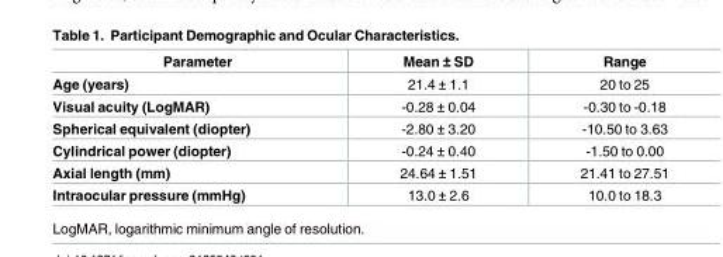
<table><thead><tr><td>Parameter</td><td>Mean ± SD</td><td>Range</td></tr></thead><tbody><tr><td>Age (years)</td><td>21.4 ± 1.1</td><td>20 to 25</td></tr><tr><td>Visual acuity (LogMAR)</td><td>-0.28 ± 0.04</td><td>-0.30 to -0.18</td></tr><tr><td>Spherical equivalent (diopter)</td><td>-2.80 ± 3.20</td><td>-10.50 to 3.63</td></tr><tr><td>Cylindrical power (diopter)</td><td>-0.24 ± 0.40</td><td>-1.50 to 0.00</td></tr><tr><td>Axial length (mm)</td><td>24.64 ± 1.51</td><td>21.41 to 27.51</td></tr><tr><td>Intraocular pressure (mmHg)</td><td>13.0 ± 2.6</td><td>10.0 to 18.3</td></tr></tbody></table>